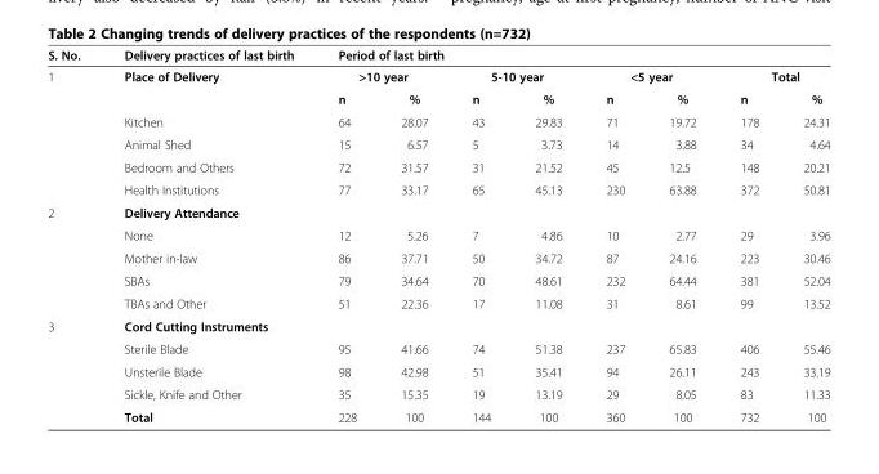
<table><thead><tr><td rowspan="3">S. No. 1</td><td rowspan="3">Delivery practices of last birth Place of Delivery</td><td colspan="8">Period of last birth</td></tr><tr><td colspan="2">&gt;10 year</td><td colspan="2">5-10 year</td><td colspan="2">&lt;5 year</td><td colspan="2">Total</td></tr><tr><td>n</td><td>%</td><td>n</td><td>%</td><td>n</td><td>%</td><td>n</td><td>%</td></tr></thead><tbody><tr><td rowspan="4"></td><td>Kitchen</td><td>64</td><td>28.07</td><td>43</td><td>29.83</td><td>71</td><td>19.72</td><td>178</td><td>24.31</td></tr><tr><td>Animal Shed</td><td>15</td><td>6.57</td><td>5</td><td>3.73</td><td>14</td><td>3.88</td><td>34</td><td>4.64</td></tr><tr><td>Bedroom and Others</td><td>72</td><td>31.57</td><td>31</td><td>21.52</td><td>45</td><td>12.5</td><td>148</td><td>20.21</td></tr><tr><td>Health Institutions</td><td>77</td><td>33.17</td><td>65</td><td>45.13</td><td>230</td><td>63.88</td><td>372</td><td>50.81</td></tr><tr><td rowspan="5">2</td><td>Delivery Attendance</td><td></td><td></td><td></td><td></td><td></td><td></td><td></td><td></td></tr><tr><td>None</td><td>12</td><td>5.26</td><td>7</td><td>4.86</td><td>10</td><td>2.77</td><td>29</td><td>3.96</td></tr><tr><td>Mother in-law</td><td>86</td><td>37.71</td><td>50</td><td>34.72</td><td>87</td><td>24.16</td><td>223</td><td>30.46</td></tr><tr><td>SBAs</td><td>79</td><td>34.64</td><td>70</td><td>48.61</td><td>232</td><td>64.44</td><td>381</td><td>52.04</td></tr><tr><td>TBAs and Other</td><td>51</td><td>22.36</td><td>17</td><td>11.08</td><td>31</td><td>8.61</td><td>99</td><td>13.52</td></tr><tr><td rowspan="5">3</td><td>Cord Cutting Instruments</td><td></td><td></td><td></td><td></td><td></td><td></td><td></td><td></td></tr><tr><td>Sterile Blade</td><td>95</td><td>41.66</td><td>74</td><td>51.38</td><td>237</td><td>65.83</td><td>406</td><td>55.46</td></tr><tr><td>Unsterile Blade</td><td>98</td><td>42.98</td><td>51</td><td>35.41</td><td>94</td><td>26.11</td><td>243</td><td>33.19</td></tr><tr><td>Sickle, Knife and Other</td><td>35</td><td>15.35</td><td>19</td><td>13.19</td><td>29</td><td>8.05</td><td>83</td><td>11.33</td></tr><tr><td>Total</td><td>228</td><td>100</td><td>144</td><td>100</td><td>360</td><td>100</td><td>732</td><td>100</td></tr></tbody></table>